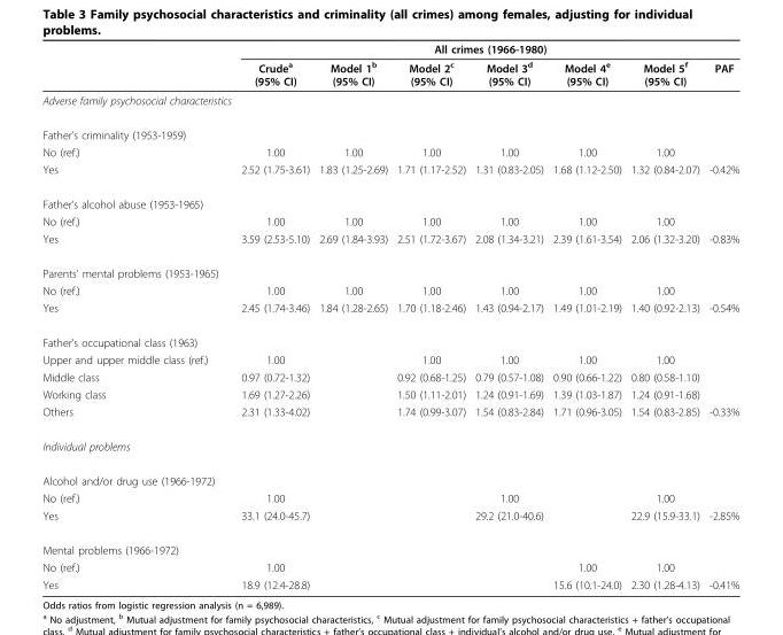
<table><thead><tr><td rowspan="2"></td><td colspan="7">All crimes (1966-1980)</td></tr><tr><td>Crude<sup>a</sup> (95% CI)</td><td>Model 1<sup>b</sup> (95% CI)</td><td>Model 2<sup>c</sup> (95% CI)</td><td>Model 3<sup>d</sup> (95% CI)</td><td>Model 4<sup>e</sup> (95% CI)</td><td>Model 5<sup>f</sup> (95% CI)</td><td>PAF</td></tr></thead><tbody><tr><td colspan="8">Adverse family psychosocial characteristics</td></tr><tr><td colspan="8">Father’s criminality (1953-1959)</td></tr><tr><td>No (ref.)</td><td>1.00</td><td>1.00</td><td>1.00</td><td>1.00</td><td>1.00</td><td>1.00</td><td></td></tr><tr><td>Yes</td><td>2.52 (1.75-3.61)</td><td>1.83 (1.25-2.69)</td><td>1.71 (1.17-2.52)</td><td>1.31 (0.83-2.05)</td><td>1.68 (1.12-2.50)</td><td>1.32 (0.84-2.07)</td><td>-0.42%</td></tr><tr><td colspan="8">Father’s alcohol abuse (1953-1965)</td></tr><tr><td>No (ref.)</td><td>1.00</td><td>1.00</td><td>1.00</td><td>1.00</td><td>1.00</td><td>1.00</td><td></td></tr><tr><td>Yes</td><td>3.59 (2.53-5.10)</td><td>2.69 (1.84-3.93)</td><td>2.51 (1.72-3.67)</td><td>2.08 (1.34-3.21)</td><td>2.39 (1.61-3.54)</td><td>2.06 (1.32-3.20)</td><td>-0.83%</td></tr><tr><td colspan="8">Parents’ mental problems (1953-1965)</td></tr><tr><td>No (ref.)</td><td>1.00</td><td>1.00</td><td>1.00</td><td>1.00</td><td>1.00</td><td>1.00</td><td></td></tr><tr><td>Yes</td><td>2.45 (1.74-3.46)</td><td>1.84 (1.28-2.65)</td><td>1.70 (1.18-2.46)</td><td>1.43 (0.94-2.17)</td><td>1.49 (1.01-2.19)</td><td>1.40 (0.92-2.13)</td><td>-0.54%</td></tr><tr><td colspan="8">Father’s occupational class (1963)</td></tr><tr><td>Upper and upper middle class (ref.)</td><td>1.00</td><td></td><td>1.00</td><td>1.00</td><td>1.00</td><td>1.00</td><td></td></tr><tr><td>Middle class</td><td>0.97 (0.72-1.32)</td><td></td><td>0.92 (0.68-1.25)</td><td>0.79 (0.57-1.08)</td><td>0.90 (0.66-1.22)</td><td>0.80 (0.58-1.10)</td><td></td></tr><tr><td>Working class</td><td>1.69 (1.27-2.26)</td><td></td><td>1.50 (1.11-2.01)</td><td>1.24 (0.91-1.69)</td><td>1.39 (1.03-1.87)</td><td>1.24 (0.91-1.68)</td><td></td></tr><tr><td>Others</td><td>2.31 (1.33-4.02)</td><td></td><td>1.74 (0.99-3.07)</td><td>1.54 (0.83-2.84)</td><td>1.71 (0.96-3.05)</td><td>1.54 (0.83-2.85)</td><td>-0.33%</td></tr><tr><td colspan="8">Individual problems</td></tr><tr><td colspan="8">Alcohol and/or drug use (1966-1972)</td></tr><tr><td>No (ref.)</td><td>1.00</td><td></td><td></td><td>1.00</td><td></td><td>1.00</td><td></td></tr><tr><td>Yes</td><td>33.1 (24.0-45.7)</td><td></td><td></td><td>29.2 (21.0-40.6)</td><td></td><td>22.9 (15.9-33.1)</td><td>-2.85%</td></tr><tr><td colspan="8">Mental problems (1966-1972)</td></tr><tr><td>No (ref.)</td><td>1.00</td><td></td><td></td><td></td><td>1.00</td><td>1.00</td><td></td></tr><tr><td>Yes</td><td>18.9 (12.4-28.8)</td><td></td><td></td><td></td><td>15.6 (10.1-24.0)</td><td>2.30 (1.28-4.13)</td><td>-0.41%</td></tr></tbody></table>